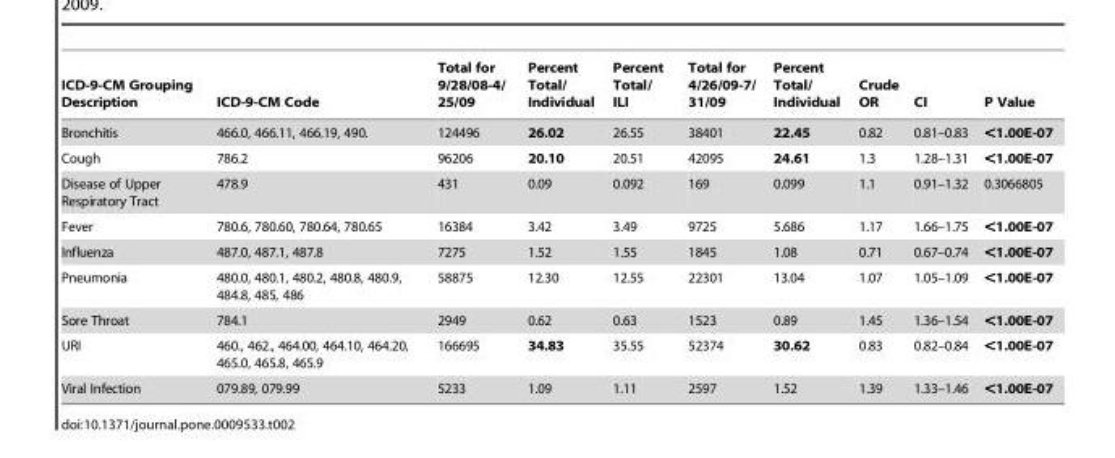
<table><thead><tr><td>ICD-9-CM Grouping Description</td><td>ICD-9-CM Code</td><td>Total for 9/28/08-4/ 25/09</td><td>Percent Total/ Individual</td><td>Percent Total/ ILI</td><td>Total for 4/26/09-7/ 31/09</td><td>Percent Total/ Individual</td><td>Crude OR</td><td>CI</td><td>P Value</td></tr></thead><tbody><tr><td>Bronchitis</td><td>466.0, 466.11, 466.19, 490.</td><td>124496</td><td>26.02</td><td>26.55</td><td>38401</td><td>22.45</td><td>0.82</td><td>0.81–0.83</td><td>&lt;1.00E-07</td></tr><tr><td>Cough</td><td>786.2</td><td>96206</td><td>20.10</td><td>20.51</td><td>42095</td><td>24.61</td><td>1.3</td><td>1.28–1.31</td><td>&lt;1.00E-07</td></tr><tr><td>Disease of Upper Respiratory Tract</td><td>478.9</td><td>431</td><td>0.09</td><td>0.092</td><td>169</td><td>0.099</td><td>1.1</td><td>0.91–1.32</td><td>0.3066805</td></tr><tr><td>Fever</td><td>780.6, 780.60, 780.64, 780.65</td><td>16384</td><td>3.42</td><td>3.49</td><td>9725</td><td>5.686</td><td>1.17</td><td>1.66–1.75</td><td>&lt;1.00E-07</td></tr><tr><td>Influenza</td><td>487.0, 487.1, 487.8</td><td>7275</td><td>1.52</td><td>1.55</td><td>1845</td><td>1.08</td><td>0.71</td><td>0.67–0.74</td><td>&lt;1.00E-07</td></tr><tr><td>Pneumonia</td><td>480.0, 480.1, 480.2, 480.8, 480.9, 484.8, 485, 486</td><td>58875</td><td>12.30</td><td>12.55</td><td>22301</td><td>13.04</td><td>1.07</td><td>1.05–1.09</td><td>&lt;1.00E-07</td></tr><tr><td>Sore Throat</td><td>784.1</td><td>2949</td><td>0.62</td><td>0.63</td><td>1523</td><td>0.89</td><td>1.45</td><td>1.36–1.54</td><td>&lt;1.00E-07</td></tr><tr><td>URI</td><td>460., 462., 464.00, 464.10, 464.20, 465.0, 465.8, 465.9</td><td>166695</td><td>34.83</td><td>35.55</td><td>52374</td><td>30.62</td><td>0.83</td><td>0.82–0.84</td><td>&lt;1.00E-07</td></tr><tr><td>Viral Infection</td><td>079.89, 079.99</td><td>5233</td><td>1.09</td><td>1.11</td><td>2597</td><td>1.52</td><td>1.39</td><td>1.33–1.46</td><td>&lt;1.00E-07</td></tr></tbody></table>